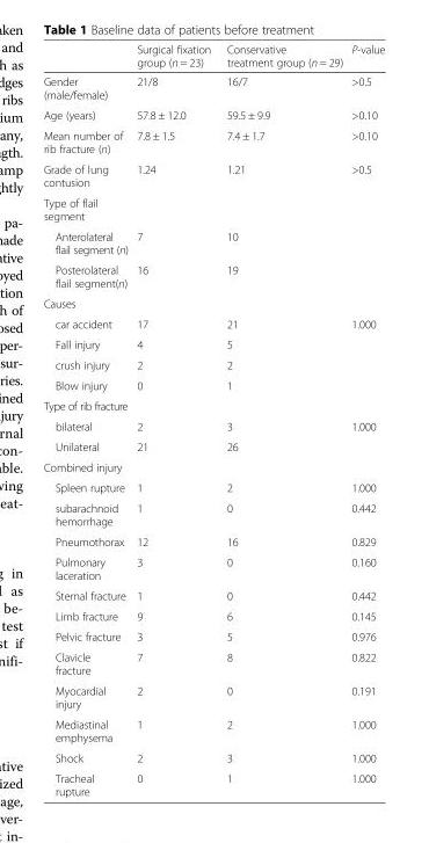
<table><thead><tr><td></td><td>Surgical fixation group (n = 23)</td><td>Conservative treatment group (n = 29)</td><td>P-value</td></tr></thead><tbody><tr><td>Gender (male/female)</td><td>21/8</td><td>16/7</td><td>&gt;0.5</td></tr><tr><td>Age (years)</td><td>57.8 ± 12.0</td><td>59.5 ± 9.9</td><td>&gt;0.10</td></tr><tr><td>Mean number of rib fracture (n)</td><td>7.8 ± 1.5</td><td>7.4 ± 1.7</td><td>&gt;0.10</td></tr><tr><td>Grade of lung contusion</td><td>1.24</td><td>1.21</td><td>&gt;0.5</td></tr><tr><td colspan="4">Type of flail segment</td></tr><tr><td>Anterolateral flail segment (n)</td><td>7</td><td>10</td><td></td></tr><tr><td>Posterolateral flail segment(n)</td><td>16</td><td>19</td><td></td></tr><tr><td colspan="4">Causes</td></tr><tr><td>car accident</td><td>17</td><td>21</td><td rowspan="4">1.000</td></tr><tr><td>Fall injury</td><td>4</td><td>5</td></tr><tr><td>crush injury</td><td>2</td><td>2</td></tr><tr><td>Blow injury</td><td>0</td><td>1</td></tr><tr><td colspan="4">Type of rib fracture</td></tr><tr><td>bilateral</td><td>2</td><td>3</td><td rowspan="2">1.000</td></tr><tr><td>Unilateral</td><td>21</td><td>26</td></tr><tr><td colspan="4">Combined injury</td></tr><tr><td>Spleen rupture</td><td>1</td><td>2</td><td>1.000</td></tr><tr><td>subarachnoid hemorrhage</td><td>1</td><td>0</td><td>0.442</td></tr><tr><td>Pneumothorax</td><td>12</td><td>16</td><td>0.829</td></tr><tr><td>Pulmonary laceration</td><td>3</td><td>0</td><td>0.160</td></tr><tr><td>Sternal fracture</td><td>1</td><td>0</td><td>0.442</td></tr><tr><td>Limb fracture</td><td>9</td><td>6</td><td>0.145</td></tr><tr><td>Pelvic fracture</td><td>3</td><td>5</td><td>0.976</td></tr><tr><td>Clavicle fracture</td><td>7</td><td>8</td><td>0.822</td></tr><tr><td>Myocardial injury</td><td>2</td><td>0</td><td>0.191</td></tr><tr><td>Mediastinal emphysema</td><td>1</td><td>2</td><td>1.000</td></tr><tr><td>Shock</td><td>2</td><td>3</td><td>1.000</td></tr><tr><td>Tracheal rupture</td><td>0</td><td>1</td><td>1.000</td></tr></tbody></table>